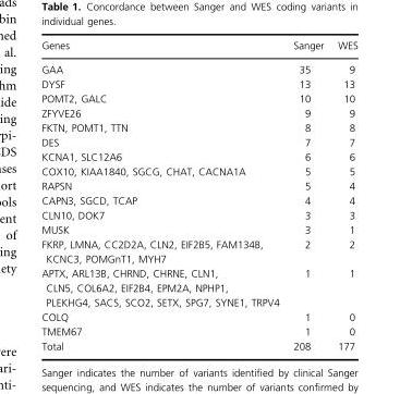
<table><thead><tr><td>Genes</td><td>Sanger</td><td>WES</td></tr></thead><tbody><tr><td>GAA</td><td>35</td><td>9</td></tr><tr><td>DYSF</td><td>13</td><td>13</td></tr><tr><td>POMT2, GALC</td><td>10</td><td>10</td></tr><tr><td>ZFYVE26</td><td>9</td><td>9</td></tr><tr><td>FKTN, POMT1, TTN</td><td>8</td><td>8</td></tr><tr><td>DES</td><td>7</td><td>7</td></tr><tr><td>KCNA1, SLC12A6</td><td>6</td><td>6</td></tr><tr><td>COX10, KIAA1840, SGCG, CHAT, CACNA1A</td><td>5</td><td>5</td></tr><tr><td>RAPSN</td><td>5</td><td>4</td></tr><tr><td>CAPN3, SGCD, TCAP</td><td>4</td><td>4</td></tr><tr><td>CLN10, DOK7</td><td>3</td><td>3</td></tr><tr><td>MUSK</td><td>3</td><td>1</td></tr><tr><td>FKRP, LMNA, CC2D2A, CLN2, EIF2B5, FAM134B, KCNC3, POMGnT1, MYH7</td><td>2</td><td>2</td></tr><tr><td>APTX, ARL13B, CHRND, CHRNE, CLN1, CLN5, COL6A2, EIF2B4, EPM2A, NPHP1, PLEKHG4, SACS, SCO2, SETX, SPG7, SYNE1, TRPV4</td><td>1</td><td>1</td></tr><tr><td>COLQ</td><td>1</td><td>0</td></tr><tr><td>TMEM67</td><td>1</td><td>0</td></tr><tr><td>Total</td><td>208</td><td>177</td></tr></tbody></table>